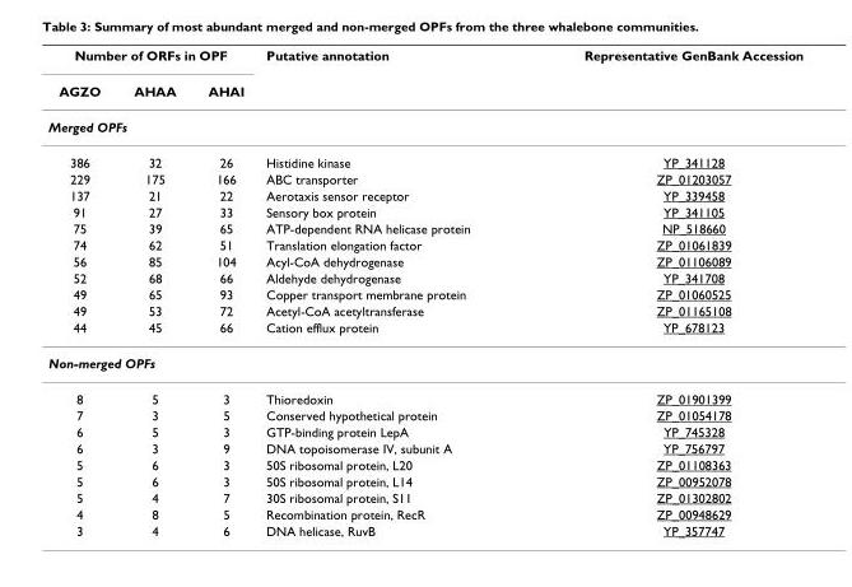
<table><thead><tr><td colspan="3">Number of ORFs in OPF</td><td rowspan="2">Putative annotation</td><td rowspan="2">Representative GenBank Accession</td></tr><tr><td>AGZO</td><td>AHAA</td><td>AHAI</td></tr></thead><tbody><tr><td colspan="5">Merged OPFs</td></tr><tr><td>386</td><td>32</td><td>26</td><td>Histidine kinase</td><td>YP_341128</td></tr><tr><td>229</td><td>175</td><td>166</td><td>ABC transporter</td><td>ZP_01203057</td></tr><tr><td>137</td><td>21</td><td>22</td><td>Aerotaxis sensor receptor</td><td>YP_339458</td></tr><tr><td>91</td><td>27</td><td>33</td><td>Sensory box protein</td><td>YP_341105</td></tr><tr><td>75</td><td>39</td><td>65</td><td>ATP-dependent RNA helicase protein</td><td>NP_518660</td></tr><tr><td>74</td><td>62</td><td>51</td><td>Translation elongation factor</td><td>ZP_01061839</td></tr><tr><td>56</td><td>85</td><td>104</td><td>Acyl-CoA dehydrogenase</td><td>ZP_01106089</td></tr><tr><td>52</td><td>68</td><td>66</td><td>Aldehyde dehydrogenase</td><td>YP_341708</td></tr><tr><td>49</td><td>65</td><td>93</td><td>Copper transport membrane protein</td><td>ZP_01060525</td></tr><tr><td>49</td><td>53</td><td>72</td><td>Acetyl-CoA acetyltransferase</td><td>ZP_01165108</td></tr><tr><td>44</td><td>45</td><td>66</td><td>Cation efflux protein</td><td>YP_678123</td></tr><tr><td colspan="5">Non-merged OPFs</td></tr><tr><td>8</td><td>5</td><td>3</td><td>Thioredoxin</td><td>ZP_01901399</td></tr><tr><td>7</td><td>3</td><td>5</td><td>Conserved hypothetical protein</td><td>ZP_01054178</td></tr><tr><td>6</td><td>5</td><td>3</td><td>GTP-binding protein LepA</td><td>YP_745328</td></tr><tr><td>6</td><td>3</td><td>9</td><td>DNA topoisomerase IV, subunit A</td><td>YP_756797</td></tr><tr><td>5</td><td>6</td><td>3</td><td>50S ribosomal protein, L20</td><td>ZP_01108363</td></tr><tr><td>5</td><td>6</td><td>3</td><td>50S ribosomal protein, L14</td><td>ZP_00952078</td></tr><tr><td>5</td><td>4</td><td>7</td><td>30S ribosomal protein, S11</td><td>ZP_01302802</td></tr><tr><td>4</td><td>8</td><td>5</td><td>Recombination protein, RecR</td><td>ZP_00948629</td></tr><tr><td>3</td><td>4</td><td>6</td><td>DNA helicase, RuvB</td><td>YP_357747</td></tr></tbody></table>